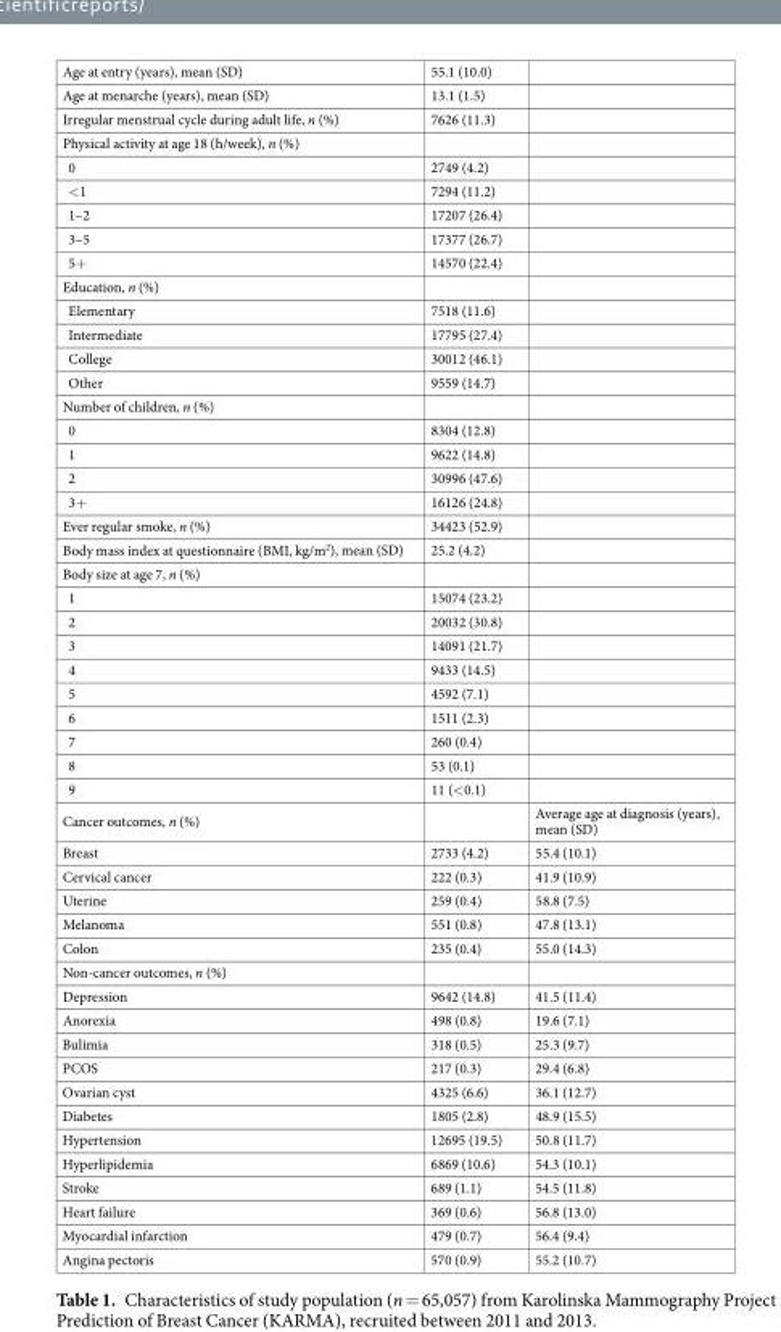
<table><tbody><tr><td>Age at entry (years), mean (SD)</td><td>55.1 (10.0)</td><td></td></tr><tr><td>Age at menarche (years), mean (SD)</td><td>13.1 (1.5)</td><td></td></tr><tr><td>Irregular menstrual cycle during adult life, n (%)</td><td>7626 (11.3)</td><td></td></tr><tr><td colspan="3">Physical activity at age 18 (h/week), n (%)</td></tr><tr><td>0</td><td>2749 (4.2)</td><td></td></tr><tr><td>&lt;1</td><td>7294 (11.2)</td><td></td></tr><tr><td>1–2</td><td>17207 (26.4)</td><td></td></tr><tr><td>3–5</td><td>17377 (26.7)</td><td></td></tr><tr><td>5+</td><td>14570 (22.4)</td><td></td></tr><tr><td colspan="3">Education, n (%)</td></tr><tr><td>Elementary</td><td>7518 (11.6)</td><td></td></tr><tr><td>Intermediate</td><td>17795 (27.4)</td><td></td></tr><tr><td>College</td><td>30012 (46.1)</td><td></td></tr><tr><td>Other</td><td>9559 (14.7)</td><td></td></tr><tr><td colspan="3">Number of children, n (%)</td></tr><tr><td>0</td><td>8304 (12.8)</td><td></td></tr><tr><td>1</td><td>9622 (14.8)</td><td></td></tr><tr><td>2</td><td>30996 (47.6)</td><td></td></tr><tr><td>3+</td><td>16126 (24.8)</td><td></td></tr><tr><td>Ever regular smoke, n (%)</td><td>34423 (52.9)</td><td></td></tr><tr><td>Body mass index at questionnaire (BMI, kg/m<sup>2</sup>), mean (SD)</td><td>25.2 (4.2)</td><td></td></tr><tr><td colspan="3">Body size at age 7, n (%)</td></tr><tr><td>1</td><td>15074 (23.2)</td><td></td></tr><tr><td>2</td><td>20032 (30.8)</td><td></td></tr><tr><td>3</td><td>14091 (21.7)</td><td></td></tr><tr><td>4</td><td>9433 (14.5)</td><td></td></tr><tr><td>5</td><td>4592 (7.1)</td><td></td></tr><tr><td>6</td><td>1511 (2.3)</td><td></td></tr><tr><td>7</td><td>260 (0.4)</td><td></td></tr><tr><td>8</td><td>53 (0.1)</td><td></td></tr><tr><td>9</td><td>11 (&lt;0.1)</td><td></td></tr><tr><td>Cancer outcomes, n (%)</td><td></td><td>Average age at diagnosis (years), mean (SD)</td></tr><tr><td>Breast</td><td>2733 (4.2)</td><td>55.4 (10.1)</td></tr><tr><td>Cervical cancer</td><td>222 (0.3)</td><td>41.9 (10.9)</td></tr><tr><td>Uterine</td><td>259 (0.4)</td><td>58.8 (7.5)</td></tr><tr><td>Melanoma</td><td>551 (0.8)</td><td>47.8 (13.1)</td></tr><tr><td>Colon</td><td>235 (0.4)</td><td>55.0 (14.3)</td></tr><tr><td colspan="3">Non-cancer outcomes, n (%)</td></tr><tr><td>Depression</td><td>9642 (14.8)</td><td>41.5 (11.4)</td></tr><tr><td>Anorexia</td><td>498 (0.8)</td><td>19.6 (7.1)</td></tr><tr><td>Bulimia</td><td>318 (0.5)</td><td>25.3 (9.7)</td></tr><tr><td>PCOS</td><td>217 (0.3)</td><td>29.4 (6.8)</td></tr><tr><td>Ovarian cyst</td><td>4325 (6.6)</td><td>36.1 (12.7)</td></tr><tr><td>Diabetes</td><td>1805 (2.8)</td><td>48.9 (15.5)</td></tr><tr><td>Hypertension</td><td>12695 (19.5)</td><td>50.8 (11.7)</td></tr><tr><td>Hyperlipidemia</td><td>6869 (10.6)</td><td>54.3 (10.1)</td></tr><tr><td>Stroke</td><td>689 (1.1)</td><td>54.5 (11.8)</td></tr><tr><td>Heart failure</td><td>369 (0.6)</td><td>56.8 (13.0)</td></tr><tr><td>Myocardial infarction</td><td>479 (0.7)</td><td>56.4 (9.4)</td></tr><tr><td>Angina pectoris</td><td>570 (0.9)</td><td>55.2 (10.7)</td></tr></tbody></table>